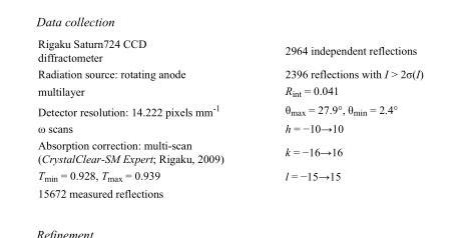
<table><tbody><tr><td>Rigaku Saturn724 CCD diffractometer</td><td>2964 independent reflections</td></tr><tr><td>Radiation source: rotating anode</td><td>2396 reflections with I &gt; 2σ(I)</td></tr><tr><td>multilayer</td><td>R<sub>int</sub> = 0.041</td></tr><tr><td>Detector resolution: 14.222 pixels mm<sup>-1</sup></td><td>θ<sub>max</sub> = 27.9°, θ<sub>min</sub> = 2.4°</td></tr><tr><td>ω scans</td><td>h = −10→10</td></tr><tr><td>Absorption correction: multi-scan (CrystalClear-SM Expert; Rigaku, 2009)</td><td>k = −16→16</td></tr><tr><td>T<sub>min</sub> = 0.928, T<sub>max</sub> = 0.939</td><td>l = −15→15</td></tr><tr><td>15672 measured reflections</td><td></td></tr></tbody></table>